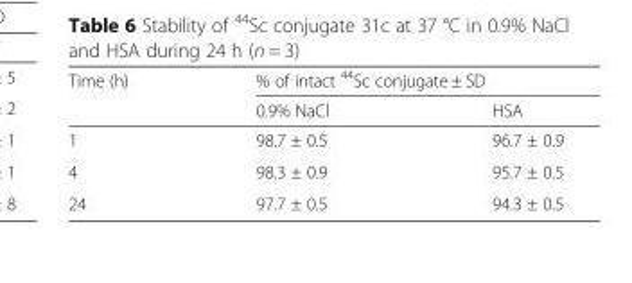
<table><thead><tr><td rowspan="2">Time (h)</td><td colspan="2">% of intact <sup>44</sup>Sc conjugate ± SD</td></tr><tr><td>0.9% NaCl</td><td>HSA</td></tr></thead><tbody><tr><td>1</td><td>98.7 ± 0.5</td><td>96.7 ± 0.9</td></tr><tr><td>4</td><td>98.3 ± 0.9</td><td>95.7 ± 0.5</td></tr><tr><td>24</td><td>97.7 ± 0.5</td><td>94.3 ± 0.5</td></tr></tbody></table>